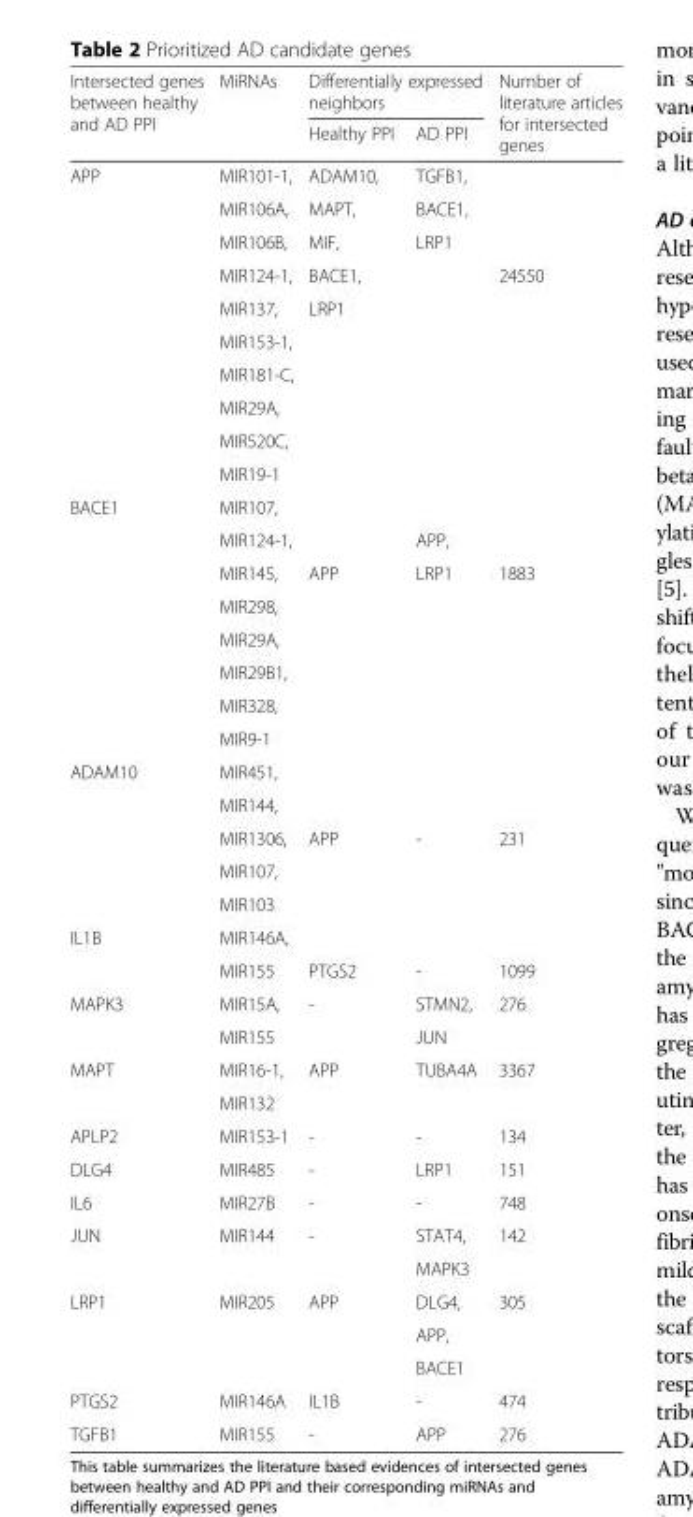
<table><thead><tr><td rowspan="2">Intersected genes between healthy and AD PPI</td><td rowspan="2">MiRNAs</td><td colspan="2">Differentially expressed neighbors</td><td rowspan="2">Number of literature articles for intersected genes</td></tr><tr><td>Healthy PPI</td><td>AD PPI</td></tr></thead><tbody><tr><td rowspan="10">APP</td><td>MIR101-1,</td><td>ADAM10,</td><td>TGFB1,</td><td></td></tr><tr><td>MIR106A,</td><td>MAPT,</td><td>BACE1,</td><td></td></tr><tr><td>MIR106B,</td><td>MIF,</td><td>LRP1</td><td></td></tr><tr><td>MIR124-1,</td><td>BACE1,</td><td rowspan="7"></td><td rowspan="7">24550</td></tr><tr><td>MIR137,</td><td>LRP1</td></tr><tr><td>MIR153-1,</td><td rowspan="5"></td></tr><tr><td>MIR181-C,</td></tr><tr><td>MIR29A,</td></tr><tr><td>MIR520C,</td></tr><tr><td>MIR19-1</td></tr><tr><td rowspan="8">BACE1</td><td>MIR107,</td><td></td><td></td><td></td></tr><tr><td>MIR124-1,</td><td></td><td>APP,</td><td></td></tr><tr><td>MIR145,</td><td rowspan="6">APP</td><td rowspan="6">LRP1</td><td rowspan="6">1883</td></tr><tr><td>MIR298,</td></tr><tr><td>MIR29A,</td></tr><tr><td>MIR29B1,</td></tr><tr><td>MIR328,</td></tr><tr><td>MIR9-1</td></tr><tr><td rowspan="5">ADAM10</td><td>MIR451,</td><td></td><td></td><td></td></tr><tr><td>MIR144,</td><td></td><td></td><td></td></tr><tr><td>MIR1306,</td><td rowspan="3">APP</td><td rowspan="3">-</td><td rowspan="3">231</td></tr><tr><td>MIR107,</td></tr><tr><td>MIR103</td></tr><tr><td rowspan="2">IL1B</td><td>MIR146A,</td><td></td><td></td><td></td></tr><tr><td>MIR155</td><td>PTGS2</td><td>-</td><td>1099</td></tr><tr><td rowspan="2">MAPK3</td><td>MIR15A,</td><td rowspan="2">-</td><td>STMN2,</td><td rowspan="2">276</td></tr><tr><td>MIR155</td><td>JUN</td></tr><tr><td rowspan="2">MAPT</td><td>MIR16-1,</td><td rowspan="2">APP</td><td rowspan="2">TUBA4A</td><td rowspan="2">3367</td></tr><tr><td>MIR132</td></tr><tr><td>APLP2</td><td>MIR153-1</td><td>-</td><td>-</td><td>134</td></tr><tr><td>DLG4</td><td>MIR485</td><td>-</td><td>LRP1</td><td>151</td></tr><tr><td>IL6</td><td>MIR27B</td><td>-</td><td>-</td><td>748</td></tr><tr><td rowspan="2">JUN</td><td rowspan="2">MIR144</td><td rowspan="2">-</td><td>STAT4,</td><td rowspan="2">142</td></tr><tr><td>MAPK3</td></tr><tr><td rowspan="3">LRP1</td><td rowspan="3">MIR205</td><td rowspan="3">APP</td><td>DLG4,</td><td rowspan="3">305</td></tr><tr><td>APP,</td></tr><tr><td>BACE1</td></tr><tr><td>PTGS2</td><td>MIR146A</td><td>IL1B</td><td>-</td><td>474</td></tr><tr><td>TGFB1</td><td>MIR155</td><td>-</td><td>APP</td><td>276</td></tr></tbody></table>